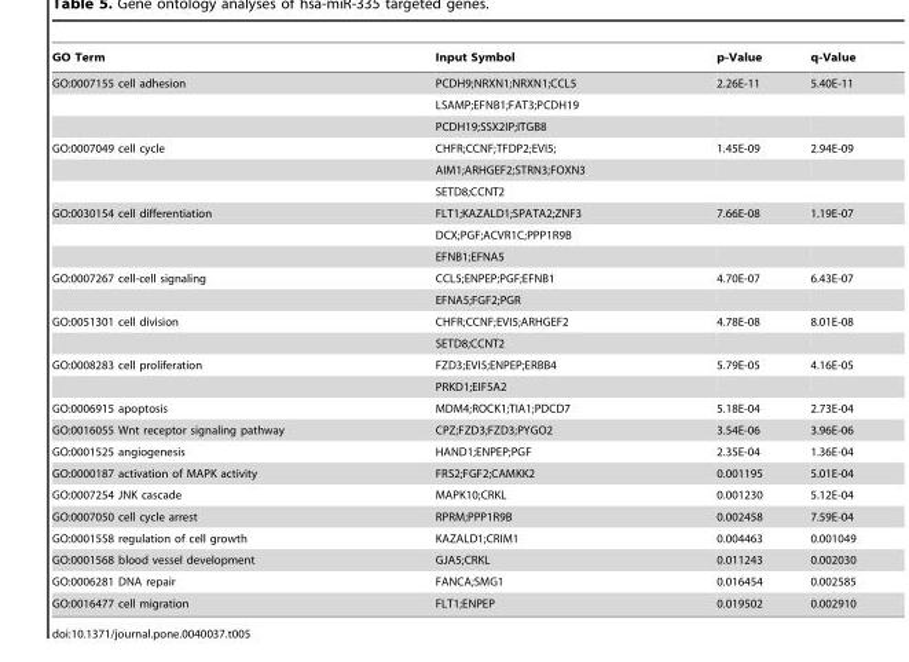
<table><thead><tr><td>GO Term</td><td>Input Symbol</td><td>p-Value</td><td>q-Value</td></tr></thead><tbody><tr><td rowspan="3">GO:0007155 cell adhesion</td><td>PCDH9;NRXN1;NRXN1;CCL5</td><td>2.26E-11</td><td>5.40E-11</td></tr><tr><td>LSAMP;EFNB1;FAT3;PCDH19</td><td></td><td></td></tr><tr><td>PCDH19;SSX2IP;ITGB8</td><td></td><td></td></tr><tr><td rowspan="3">GO:0007049 cell cycle</td><td>CHFR;CCNF;TFDP2;EVI5;</td><td>1.45E-09</td><td>2.94E-09</td></tr><tr><td>AIM1;ARHGEF2;STRN3;FOXN3</td><td></td><td></td></tr><tr><td>SETD8;CCNT2</td><td></td><td></td></tr><tr><td rowspan="3">GO:0030154 cell differentiation</td><td>FLT1;KAZALD1;SPATA2;ZNF3</td><td>7.66E-08</td><td>1.19E-07</td></tr><tr><td>DCX;PGF;ACVR1C;PPP1R9B</td><td></td><td></td></tr><tr><td>EFNB1;EFNA5</td><td></td><td></td></tr><tr><td rowspan="2">GO:0007267 cell-cell signaling</td><td>CCL5;ENPEP;PGF;EFNB1</td><td>4.70E-07</td><td>6.43E-07</td></tr><tr><td>EFNA5;FGF2;PGR</td><td></td><td></td></tr><tr><td rowspan="2">GO:0051301 cell division</td><td>CHFR;CCNF;EVI5;ARHGEF2</td><td>4.78E-08</td><td>8.01E-08</td></tr><tr><td>SETD8;CCNT2</td><td></td><td></td></tr><tr><td rowspan="2">GO:0008283 cell proliferation</td><td>FZD3;EVI5;ENPEP;ERBB4</td><td>5.79E-05</td><td>4.16E-05</td></tr><tr><td>PRKD1;EIF5A2</td><td></td><td></td></tr><tr><td>GO:0006915 apoptosis</td><td>MDM4;ROCK1;TIA1;PDCD7</td><td>5.18E-04</td><td>2.73E-04</td></tr><tr><td>GO:0016055 Wnt receptor signaling pathway</td><td>CPZ;FZD3;FZD3;PYGO2</td><td>3.54E-06</td><td>3.96E-06</td></tr><tr><td>GO:0001525 angiogenesis</td><td>HAND1;ENPEP;PGF</td><td>2.35E-04</td><td>1.36E-04</td></tr><tr><td>GO:0000187 activation of MAPK activity</td><td>FRS2;FGF2;CAMKK2</td><td>0.001195</td><td>5.01E-04</td></tr><tr><td>GO:0007254 JNK cascade</td><td>MAPK10;CRKL</td><td>0.001230</td><td>5.12E-04</td></tr><tr><td>GO:0007050 cell cycle arrest</td><td>RPRM;PPP1R9B</td><td>0.002458</td><td>7.59E-04</td></tr><tr><td>GO:0001558 regulation of cell growth</td><td>KAZALD1;CRIM1</td><td>0.004463</td><td>0.001049</td></tr><tr><td>GO:0001568 blood vessel development</td><td>GJA5;CRKL</td><td>0.011243</td><td>0.002030</td></tr><tr><td>GO:0006281 DNA repair</td><td>FANCA;SMG1</td><td>0.016454</td><td>0.002585</td></tr><tr><td>GO:0016477 cell migration</td><td>FLT1;ENPEP</td><td>0.019502</td><td>0.002910</td></tr></tbody></table>